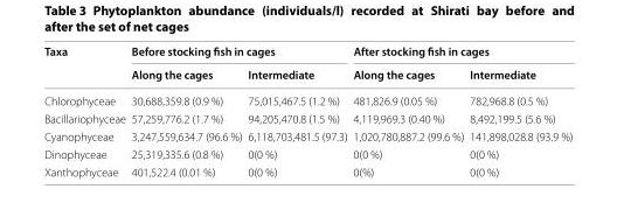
<table><thead><tr><td rowspan="2">Taxa</td><td colspan="2">Before stocking fish in cages</td><td colspan="2">After stocking fish in cages</td></tr><tr><td>Along the cages</td><td>Intermediate</td><td>Along the cages</td><td>Intermediate</td></tr></thead><tbody><tr><td>Chlorophyceae</td><td>30,688,359.8 (0.9 %)</td><td>75,015,467.5 (1.2 %)</td><td>481,826.9 (0.05 %)</td><td>782,968.8 (0.5 %)</td></tr><tr><td>Bacillariophyceae</td><td>57,259,776.2 (1.7 %)</td><td>94,205,470.8 (1.5 %)</td><td>4,119,969.3 (0.40 %)</td><td>8,492,199.5 (5.6 %)</td></tr><tr><td>Cyanophyceae</td><td>3,247,559,634.7 (96.6 %)</td><td>6,118,703,481.5 (97.3)</td><td>1,020,780,887.2 (99.6 %)</td><td>141,898,028.8 (93.9 %)</td></tr><tr><td>Dinophyceae</td><td>25,319,335.6 (0.8 %)</td><td>0(0 %)</td><td>0(0 %)</td><td>0(0 %)</td></tr><tr><td>Xanthophyceae</td><td>401,522.4 (0.01 %)</td><td>0(0 %)</td><td>0(%)</td><td>0(0 %)</td></tr></tbody></table>